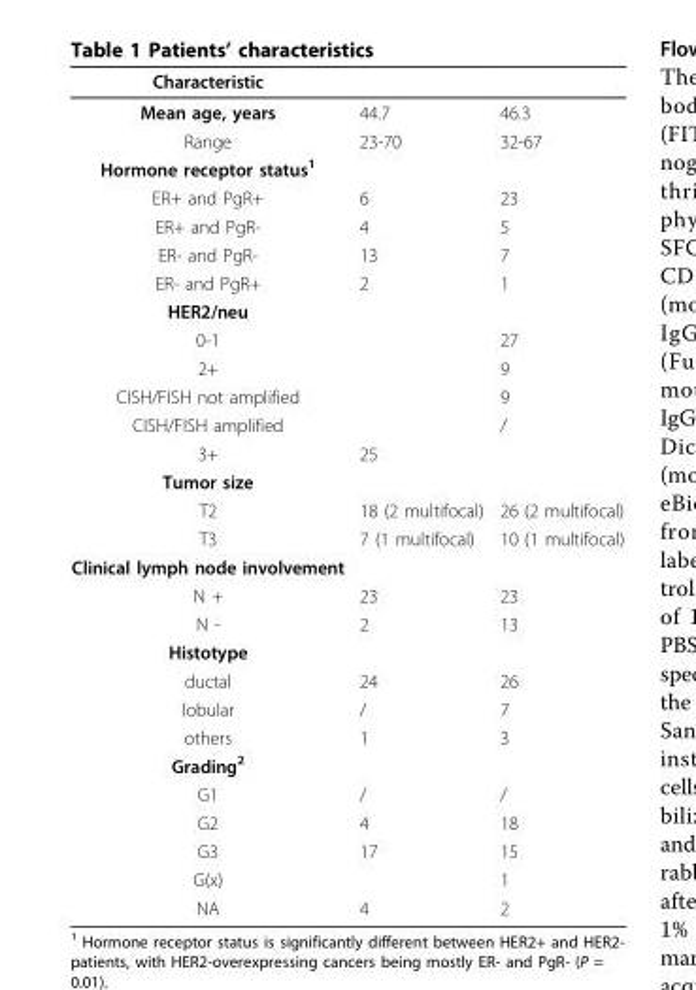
<table><thead><tr><td>Characteristic</td><td></td><td></td></tr></thead><tbody><tr><td>Mean age, years</td><td>44.7</td><td>46.3</td></tr><tr><td>Range</td><td>23-70</td><td>32-67</td></tr><tr><td colspan="3">Hormone receptor status<sup>1</sup></td></tr><tr><td>ER+ and PgR+</td><td>6</td><td>23</td></tr><tr><td>ER+ and PgR-</td><td>4</td><td>5</td></tr><tr><td>ER- and PgR-</td><td>13</td><td>7</td></tr><tr><td>ER- and PgR+</td><td>2</td><td>1</td></tr><tr><td colspan="3">HER2/neu</td></tr><tr><td>0-1</td><td></td><td>27</td></tr><tr><td>2+</td><td></td><td>9</td></tr><tr><td>CISH/FISH not amplified</td><td></td><td>9</td></tr><tr><td>CISH/FISH amplified</td><td></td><td>/</td></tr><tr><td>3+</td><td>25</td><td></td></tr><tr><td colspan="3">Tumor size</td></tr><tr><td>T2</td><td>18 (2 multifocal)</td><td>26 (2 multifocal)</td></tr><tr><td>T3</td><td>7 (1 multifocal)</td><td>10 (1 multifocal)</td></tr><tr><td colspan="3">Clinical lymph node involvement</td></tr><tr><td>N +</td><td>23</td><td>23</td></tr><tr><td>N -</td><td>2</td><td>13</td></tr><tr><td colspan="3">Histotype</td></tr><tr><td>ductal</td><td>24</td><td>26</td></tr><tr><td>lobular</td><td>/</td><td>7</td></tr><tr><td>others</td><td>1</td><td>3</td></tr><tr><td colspan="3">Grading<sup>2</sup></td></tr><tr><td>G1</td><td>/</td><td>/</td></tr><tr><td>G2</td><td>4</td><td>18</td></tr><tr><td>G3</td><td>17</td><td>15</td></tr><tr><td>G(x)</td><td></td><td>1</td></tr><tr><td>NA</td><td>4</td><td>2</td></tr></tbody></table>